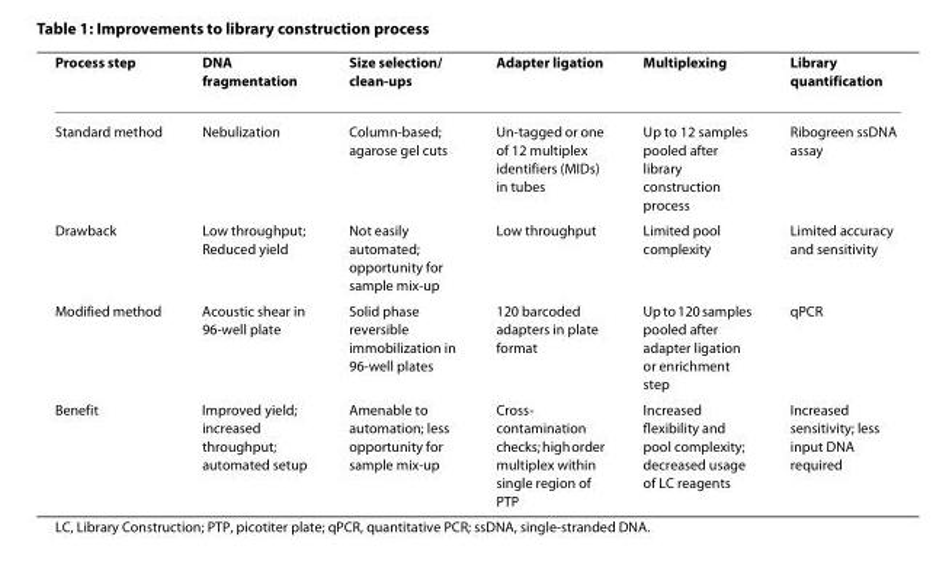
<table><thead><tr><td>Process step</td><td>DNA fragmentation</td><td>Size selection/ clean-ups</td><td>Adapter ligation</td><td>Multiplexing</td><td>Library quantification</td></tr></thead><tbody><tr><td>Standard method</td><td>Nebulization</td><td>Column-based; agarose gel cuts</td><td>Un-tagged or one of 12 multiplex identifiers (MIDs) in tubes</td><td>Up to 12 samples pooled after library construction process</td><td>Ribogreen ssDNA assay</td></tr><tr><td>Drawback</td><td>Low throughput; Reduced yield</td><td>Not easily automated; opportunity for sample mix-up</td><td>Low throughput</td><td>Limited pool complexity</td><td>Limited accuracy and sensitivity</td></tr><tr><td>Modified method</td><td>Acoustic shear in 96-well plate</td><td>Solid phase reversible immobilization in 96-well plates</td><td>120 barcoded adapters in plate format</td><td>Up to 120 samples pooled after adapter ligation or enrichment step</td><td>qPCR</td></tr><tr><td>Benefit</td><td>Improved yield; increased throughput; automated setup</td><td>Amenable to automation; less opportunity for sample mix-up</td><td>Cross- contamination checks; high order multiplex within single region of PTP</td><td>Increased flexibility and pool complexity; decreased usage of LC reagents</td><td>Increased sensitivity; less input DNA required</td></tr></tbody></table>